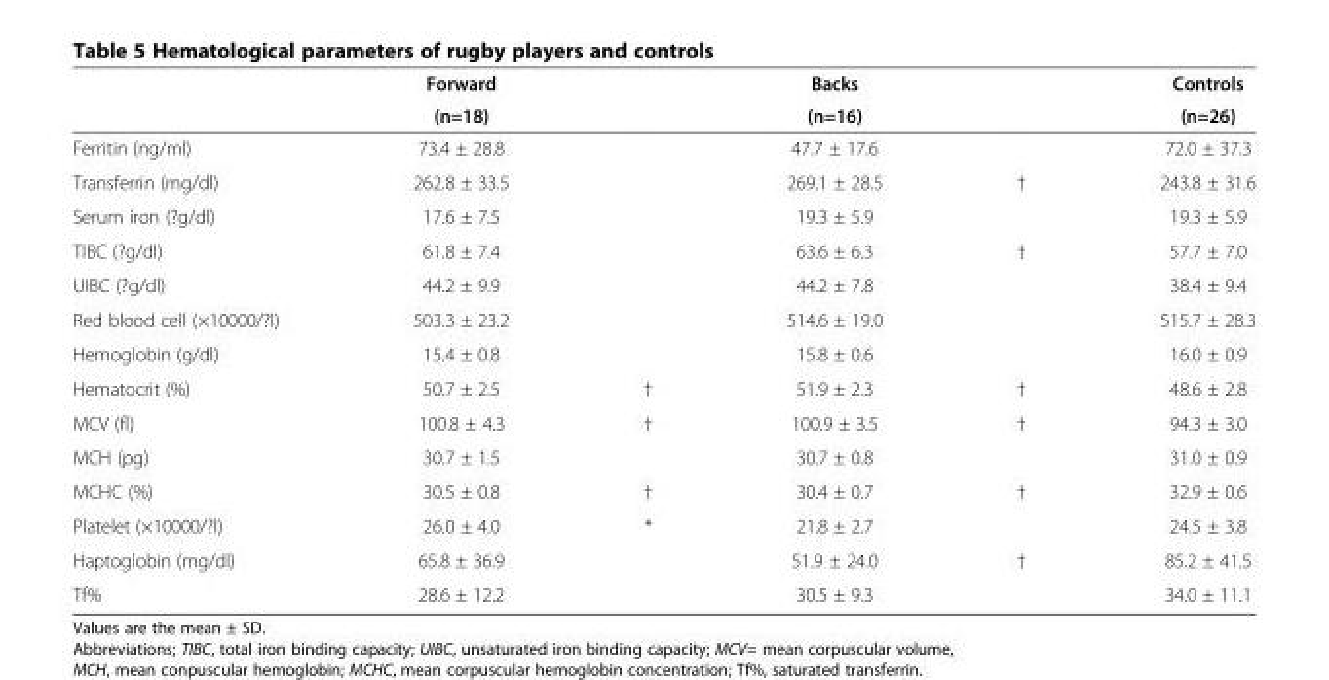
<table><thead><tr><td rowspan="2"></td><td rowspan="2">Forward (n=18)</td><td rowspan="2"></td><td rowspan="2">Backs (n=16)</td><td rowspan="2"></td><td rowspan="2">Controls (n=26)</td></tr><tr></tr></thead><tbody><tr><td>Ferritin (ng/ml)</td><td>73.4 ± 28.8</td><td></td><td>47.7 ± 17.6</td><td></td><td>72.0 ± 37.3</td></tr><tr><td>Transferrin (mg/dl)</td><td>262.8 ± 33.5</td><td></td><td>269.1 ± 28.5</td><td>†</td><td>243.8 ± 31.6</td></tr><tr><td>Serum iron (?g/dl)</td><td>17.6 ± 7.5</td><td></td><td>19.3 ± 5.9</td><td></td><td>19.3 ± 5.9</td></tr><tr><td>TIBC (?g/dl)</td><td>61.8 ± 7.4</td><td></td><td>63.6 ± 6.3</td><td>†</td><td>57.7 ± 7.0</td></tr><tr><td>UIBC (?g/dl)</td><td>44.2 ± 9.9</td><td></td><td>44.2 ± 7.8</td><td></td><td>38.4 ± 9.4</td></tr><tr><td>Red blood cell (×10000/?l)</td><td>503.3 ± 23.2</td><td></td><td>514.6 ± 19.0</td><td></td><td>515.7 ± 28.3</td></tr><tr><td>Hemoglobin (g/dl)</td><td>15.4 ± 0.8</td><td></td><td>15.8 ± 0.6</td><td></td><td>16.0 ± 0.9</td></tr><tr><td>Hematocrit (%)</td><td>50.7 ± 2.5</td><td>†</td><td>51.9 ± 2.3</td><td>†</td><td>48.6 ± 2.8</td></tr><tr><td>MCV (fl)</td><td>100.8 ± 4.3</td><td>†</td><td>100.9 ± 3.5</td><td>†</td><td>94.3 ± 3.0</td></tr><tr><td>MCH (pg)</td><td>30.7 ± 1.5</td><td></td><td>30.7 ± 0.8</td><td></td><td>31.0 ± 0.9</td></tr><tr><td>MCHC (%)</td><td>30.5 ± 0.8</td><td>†</td><td>30.4 ± 0.7</td><td>†</td><td>32.9 ± 0.6</td></tr><tr><td>Platelet (×10000/?l)</td><td>26.0 ± 4.0</td><td>*</td><td>21.8 ± 2.7</td><td></td><td>24.5 ± 3.8</td></tr><tr><td>Haptoglobin (mg/dl)</td><td>65.8 ± 36.9</td><td></td><td>51.9 ± 24.0</td><td>†</td><td>85.2 ± 41.5</td></tr><tr><td>Tf%</td><td>28.6 ± 12.2</td><td></td><td>30.5 ± 9.3</td><td></td><td>34.0 ± 11.1</td></tr></tbody></table>